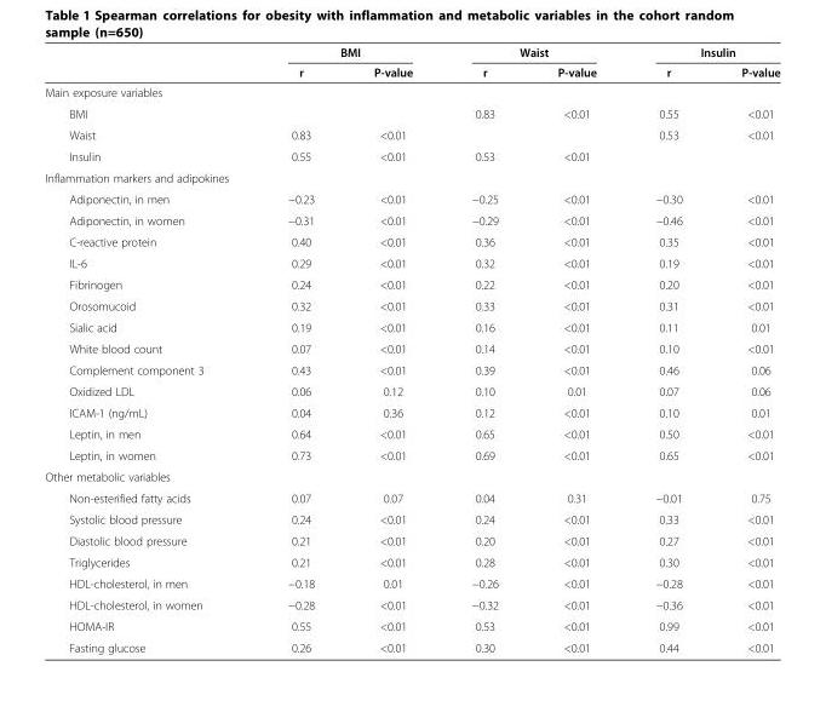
<table><thead><tr><td rowspan="2"></td><td colspan="2">BMI</td><td colspan="2">Waist</td><td colspan="2">Insulin</td></tr><tr><td>r</td><td>P-value</td><td>r</td><td>P-value</td><td>r</td><td>P-value</td></tr></thead><tbody><tr><td colspan="7">Main exposure variables</td></tr><tr><td>BMI</td><td></td><td></td><td>0.83</td><td>&lt;0.01</td><td>0.55</td><td>&lt;0.01</td></tr><tr><td>Waist</td><td>0.83</td><td>&lt;0.01</td><td></td><td></td><td>0.53</td><td>&lt;0.01</td></tr><tr><td>Insulin</td><td>0.55</td><td>&lt;0.01</td><td>0.53</td><td>&lt;0.01</td><td></td><td></td></tr><tr><td colspan="7">Inflammation markers and adipokines</td></tr><tr><td>Adiponectin, in men</td><td>−0.23</td><td>&lt;0.01</td><td>−0.25</td><td>&lt;0.01</td><td>−0.30</td><td>&lt;0.01</td></tr><tr><td>Adiponectin, in women</td><td>−0.31</td><td>&lt;0.01</td><td>−0.29</td><td>&lt;0.01</td><td>−0.46</td><td>&lt;0.01</td></tr><tr><td>C-reactive protein</td><td>0.40</td><td>&lt;0.01</td><td>0.36</td><td>&lt;0.01</td><td>0.35</td><td>&lt;0.01</td></tr><tr><td>IL-6</td><td>0.29</td><td>&lt;0.01</td><td>0.32</td><td>&lt;0.01</td><td>0.19</td><td>&lt;0.01</td></tr><tr><td>Fibrinogen</td><td>0.24</td><td>&lt;0.01</td><td>0.22</td><td>&lt;0.01</td><td>0.20</td><td>&lt;0.01</td></tr><tr><td>Orosomucoid</td><td>0.32</td><td>&lt;0.01</td><td>0.33</td><td>&lt;0.01</td><td>0.31</td><td>&lt;0.01</td></tr><tr><td>Sialic acid</td><td>0.19</td><td>&lt;0.01</td><td>0.16</td><td>&lt;0.01</td><td>0.11</td><td>0.01</td></tr><tr><td>White blood count</td><td>0.07</td><td>&lt;0.01</td><td>0.14</td><td>&lt;0.01</td><td>0.10</td><td>&lt;0.01</td></tr><tr><td>Complement component 3</td><td>0.43</td><td>&lt;0.01</td><td>0.39</td><td>&lt;0.01</td><td>0.46</td><td>0.06</td></tr><tr><td>Oxidized LDL</td><td>0.06</td><td>0.12</td><td>0.10</td><td>0.01</td><td>0.07</td><td>0.06</td></tr><tr><td>ICAM-1 (ng/mL)</td><td>0.04</td><td>0.36</td><td>0.12</td><td>&lt;0.01</td><td>0.10</td><td>0.01</td></tr><tr><td>Leptin, in men</td><td>0.64</td><td>&lt;0.01</td><td>0.65</td><td>&lt;0.01</td><td>0.50</td><td>&lt;0.01</td></tr><tr><td>Leptin, in women</td><td>0.73</td><td>&lt;0.01</td><td>0.69</td><td>&lt;0.01</td><td>0.65</td><td>&lt;0.01</td></tr><tr><td colspan="7">Other metabolic variables</td></tr><tr><td>Non-esterified fatty acids</td><td>0.07</td><td>0.07</td><td>0.04</td><td>0.31</td><td>−0.01</td><td>0.75</td></tr><tr><td>Systolic blood pressure</td><td>0.24</td><td>&lt;0.01</td><td>0.24</td><td>&lt;0.01</td><td>0.33</td><td>&lt;0.01</td></tr><tr><td>Diastolic blood pressure</td><td>0.21</td><td>&lt;0.01</td><td>0.20</td><td>&lt;0.01</td><td>0.27</td><td>&lt;0.01</td></tr><tr><td>Triglycerides</td><td>0.21</td><td>&lt;0.01</td><td>0.28</td><td>&lt;0.01</td><td>0.30</td><td>&lt;0.01</td></tr><tr><td>HDL-cholesterol, in men</td><td>−0.18</td><td>0.01</td><td>−0.26</td><td>&lt;0.01</td><td>−0.28</td><td>&lt;0.01</td></tr><tr><td>HDL-cholesterol, in women</td><td>−0.28</td><td>&lt;0.01</td><td>−0.32</td><td>&lt;0.01</td><td>−0.36</td><td>&lt;0.01</td></tr><tr><td>HOMA-IR</td><td>0.55</td><td>&lt;0.01</td><td>0.53</td><td>&lt;0.01</td><td>0.99</td><td>&lt;0.01</td></tr><tr><td>Fasting glucose</td><td>0.26</td><td>&lt;0.01</td><td>0.30</td><td>&lt;0.01</td><td>0.44</td><td>&lt;0.01</td></tr></tbody></table>